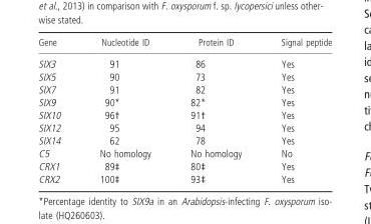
<table><thead><tr><td>Gene</td><td>Nucleotide ID</td><td>Protein ID</td><td>Signal peptide</td></tr></thead><tbody><tr><td>SIX3</td><td>91</td><td>86</td><td>Yes</td></tr><tr><td>SIX5</td><td>90</td><td>73</td><td>Yes</td></tr><tr><td>SIX7</td><td>91</td><td>82</td><td>Yes</td></tr><tr><td>SIX9</td><td>90*</td><td>82*</td><td>Yes</td></tr><tr><td>SIX10</td><td>96†</td><td>91†</td><td>Yes</td></tr><tr><td>SIX12</td><td>95</td><td>94</td><td>Yes</td></tr><tr><td>SIX14</td><td>62</td><td>78</td><td>Yes</td></tr><tr><td>C5</td><td>No homology</td><td>No homology</td><td>No</td></tr><tr><td>CRX1</td><td>89‡</td><td>80‡</td><td>Yes</td></tr><tr><td>CRX2</td><td>100‡</td><td>93‡</td><td>Yes</td></tr></tbody></table>